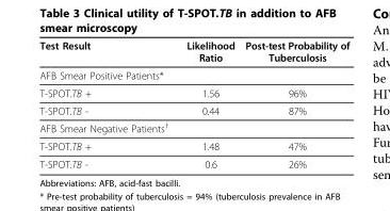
<table><thead><tr><td>Test Result</td><td>Likelihood Ratio</td><td>Post-test Probability of Tuberculosis</td></tr></thead><tbody><tr><td colspan="3">AFB Smear Positive Patients*</td></tr><tr><td>T-SPOT.TB +</td><td>1.56</td><td>96%</td></tr><tr><td>T-SPOT.TB -</td><td>0.44</td><td>87%</td></tr><tr><td colspan="3">AFB Smear Negative Patients<sup>†</sup></td></tr><tr><td>T-SPOT.TB +</td><td>1.48</td><td>47%</td></tr><tr><td>T-SPOT.TB -</td><td>0.6</td><td>26%</td></tr></tbody></table>